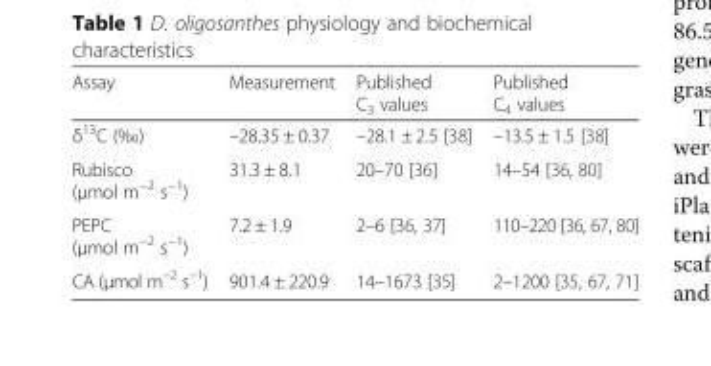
<table><thead><tr><td>Assay</td><td>Measurement</td><td>Published C<sub>3</sub> values</td><td>Published C<sub>4</sub> values</td></tr></thead><tbody><tr><td>δ<sup>13</sup>C (‰)</td><td>–28.35 ± 0.37</td><td>–28.1 ± 2.5 [38]</td><td>–13.5 ± 1.5 [38]</td></tr><tr><td>Rubisco (μmol m<sup>−2</sup> s<sup>−1</sup>)</td><td>31.3 ± 8.1</td><td>20–70 [36]</td><td>14–54 [36, 80]</td></tr><tr><td>PEPC (μmol m<sup>−2</sup> s<sup>−1</sup>)</td><td>7.2 ± 1.9</td><td>2–6 [36, 37]</td><td>110–220 [36, 67, 80]</td></tr><tr><td>CA (μmol m<sup>−2</sup> s<sup>−1</sup>)</td><td>901.4 ± 220.9</td><td>14–1673 [35]</td><td>2–1200 [35, 67, 71]</td></tr></tbody></table>